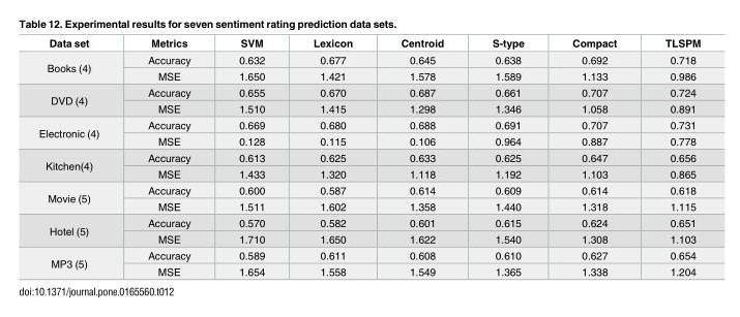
<table><thead><tr><td>Data set</td><td>Metrics</td><td>SVM</td><td>Lexicon</td><td>Centroid</td><td>S-type</td><td>Compact</td><td>TLSPM</td></tr></thead><tbody><tr><td rowspan="2">Books (4)</td><td>Accuracy</td><td>0.632</td><td>0.677</td><td>0.645</td><td>0.638</td><td>0.692</td><td>0.718</td></tr><tr><td>MSE</td><td>1.650</td><td>1.421</td><td>1.578</td><td>1.589</td><td>1.133</td><td>0.986</td></tr><tr><td rowspan="2">DVD (4)</td><td>Accuracy</td><td>0.655</td><td>0.670</td><td>0.687</td><td>0.661</td><td>0.707</td><td>0.724</td></tr><tr><td>MSE</td><td>1.510</td><td>1.415</td><td>1.298</td><td>1.346</td><td>1.058</td><td>0.891</td></tr><tr><td rowspan="2">Electronic (4)</td><td>Accuracy</td><td>0.669</td><td>0.680</td><td>0.688</td><td>0.691</td><td>0.707</td><td>0.731</td></tr><tr><td>MSE</td><td>0.128</td><td>0.115</td><td>0.106</td><td>0.964</td><td>0.887</td><td>0.778</td></tr><tr><td rowspan="2">Kitchen(4)</td><td>Accuracy</td><td>0.613</td><td>0.625</td><td>0.633</td><td>0.625</td><td>0.647</td><td>0.656</td></tr><tr><td>MSE</td><td>1.433</td><td>1.320</td><td>1.118</td><td>1.192</td><td>1.103</td><td>0.865</td></tr><tr><td rowspan="2">Movie (5)</td><td>Accuracy</td><td>0.600</td><td>0.587</td><td>0.614</td><td>0.609</td><td>0.614</td><td>0.618</td></tr><tr><td>MSE</td><td>1.511</td><td>1.602</td><td>1.358</td><td>1.440</td><td>1.318</td><td>1.115</td></tr><tr><td rowspan="2">Hotel (5)</td><td>Accuracy</td><td>0.570</td><td>0.582</td><td>0.601</td><td>0.615</td><td>0.624</td><td>0.651</td></tr><tr><td>MSE</td><td>1.710</td><td>1.650</td><td>1.622</td><td>1.540</td><td>1.308</td><td>1.103</td></tr><tr><td rowspan="2">MP3 (5)</td><td>Accuracy</td><td>0.589</td><td>0.611</td><td>0.608</td><td>0.610</td><td>0.627</td><td>0.654</td></tr><tr><td>MSE</td><td>1.654</td><td>1.558</td><td>1.549</td><td>1.365</td><td>1.338</td><td>1.204</td></tr></tbody></table>